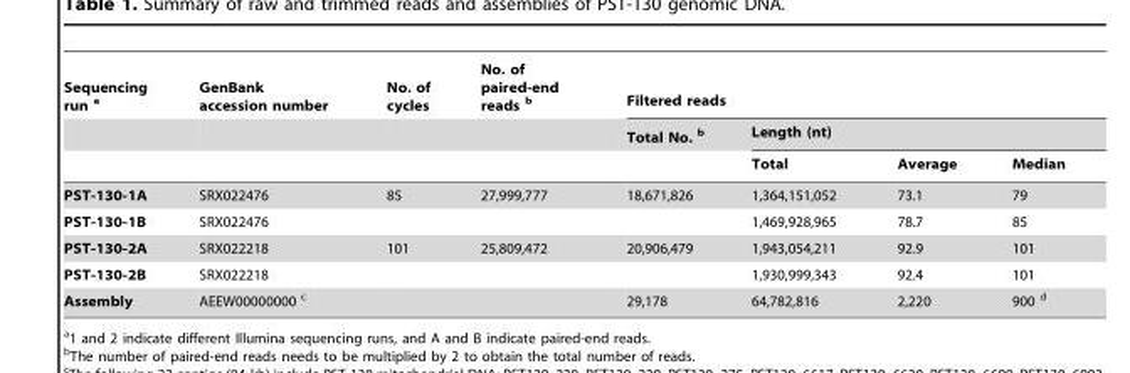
<table><thead><tr><td rowspan="3">Sequencing run a</td><td rowspan="3">GenBank accession number</td><td rowspan="3">No. of cycles</td><td rowspan="3">No. of paired-end reads b</td><td colspan="4">Filtered reads</td></tr><tr><td rowspan="2">Total No. b</td><td colspan="3">Length (nt)</td></tr><tr><td>Total</td><td>Average</td><td>Median</td></tr></thead><tbody><tr><td>PST-130-1A</td><td>SRX022476</td><td>85</td><td>27,999,777</td><td>18,671,826</td><td>1,364,151,052</td><td>73.1</td><td>79</td></tr><tr><td>PST-130-1B</td><td>SRX022476</td><td></td><td></td><td></td><td>1,469,928,965</td><td>78.7</td><td>85</td></tr><tr><td>PST-130-2A</td><td>SRX022218</td><td>101</td><td>25,809,472</td><td>20,906,479</td><td>1,943,054,211</td><td>92.9</td><td>101</td></tr><tr><td>PST-130-2B</td><td>SRX022218</td><td></td><td></td><td></td><td>1,930,999,343</td><td>92.4</td><td>101</td></tr><tr><td>Assembly</td><td>AEEW00000000 c</td><td></td><td></td><td>29,178</td><td>64,782,816</td><td>2,220</td><td>900 <sup>d</sup></td></tr></tbody></table>